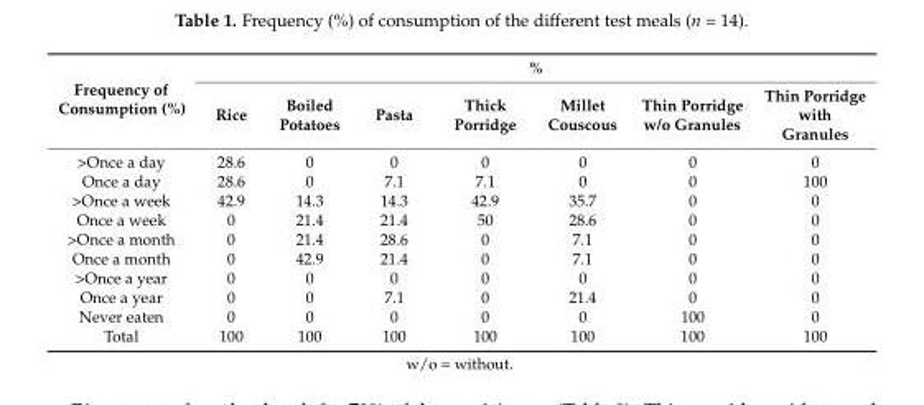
<table><thead><tr><td rowspan="2">Frequency of Consumption (%)</td><td colspan="7">%</td></tr><tr><td>Rice</td><td>Boiled Potatoes</td><td>Pasta</td><td>Thick Porridge</td><td>Millet Couscous</td><td>Thin Porridge w/o Granules</td><td>Thin Porridge with Granules</td></tr></thead><tbody><tr><td>&gt;Once a day</td><td>28.6</td><td>0</td><td>0</td><td>0</td><td>0</td><td>0</td><td>0</td></tr><tr><td>Once a day</td><td>28.6</td><td>0</td><td>7.1</td><td>7.1</td><td>0</td><td>0</td><td>100</td></tr><tr><td>&gt;Once a week</td><td>42.9</td><td>14.3</td><td>14.3</td><td>42.9</td><td>35.7</td><td>0</td><td>0</td></tr><tr><td>Once a week</td><td>0</td><td>21.4</td><td>21.4</td><td>50</td><td>28.6</td><td>0</td><td>0</td></tr><tr><td>&gt;Once a month</td><td>0</td><td>21.4</td><td>28.6</td><td>0</td><td>7.1</td><td>0</td><td>0</td></tr><tr><td>Once a month</td><td>0</td><td>42.9</td><td>21.4</td><td>0</td><td>7.1</td><td>0</td><td>0</td></tr><tr><td>&gt;Once a year</td><td>0</td><td>0</td><td>0</td><td>0</td><td>0</td><td>0</td><td>0</td></tr><tr><td>Once a year</td><td>0</td><td>0</td><td>7.1</td><td>0</td><td>21.4</td><td>0</td><td>0</td></tr><tr><td>Never eaten</td><td>0</td><td>0</td><td>0</td><td>0</td><td>0</td><td>100</td><td>0</td></tr><tr><td>Total</td><td>100</td><td>100</td><td>100</td><td>100</td><td>100</td><td>100</td><td>100</td></tr></tbody></table>